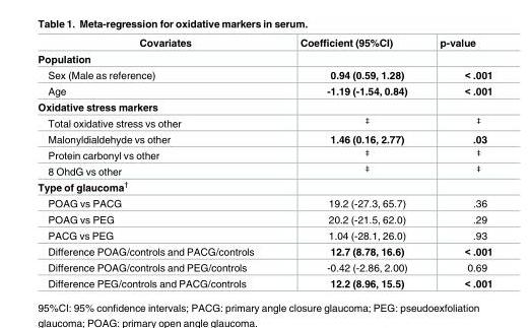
<table><thead><tr><td>Covariates</td><td>Coefficient (95%CI)</td><td>p-value</td></tr></thead><tbody><tr><td colspan="3">Population</td></tr><tr><td>Sex (Male as reference)</td><td>0.94 (0.59, 1.28)</td><td>&lt; .001</td></tr><tr><td>Age</td><td>-1.19 (-1.54, 0.84)</td><td>&lt; .001</td></tr><tr><td colspan="3">Oxidative stress markers</td></tr><tr><td>Total oxidative stress vs other</td><td><sup>‡</sup></td><td><sup>‡</sup></td></tr><tr><td>Malonyldialdehyde vs other</td><td>1.46 (0.16, 2.77)</td><td>.03</td></tr><tr><td>Protein carbonyl vs other</td><td><sup>‡</sup></td><td><sup>‡</sup></td></tr><tr><td>8 OhdG vs other</td><td><sup>‡</sup></td><td><sup>‡</sup></td></tr><tr><td colspan="3">Type of glaucoma<sup>†</sup></td></tr><tr><td>POAG vs PACG</td><td>19.2 (-27.3, 65.7)</td><td>.36</td></tr><tr><td>POAG vs PEG</td><td>20.2 (-21.5, 62.0)</td><td>.29</td></tr><tr><td>PACG vs PEG</td><td>1.04 (-28.1, 26.0)</td><td>.93</td></tr><tr><td>Difference POAG/controls and PACG/controls</td><td>12.7 (8.78, 16.6)</td><td>&lt; .001</td></tr><tr><td>Difference POAG/controls and PEG/controls</td><td>-0.42 (-2.86, 2.00)</td><td>0.69</td></tr><tr><td>Difference PEG/controls and PACG/controls</td><td>12.2 (8.96, 15.5)</td><td>&lt; .001</td></tr></tbody></table>